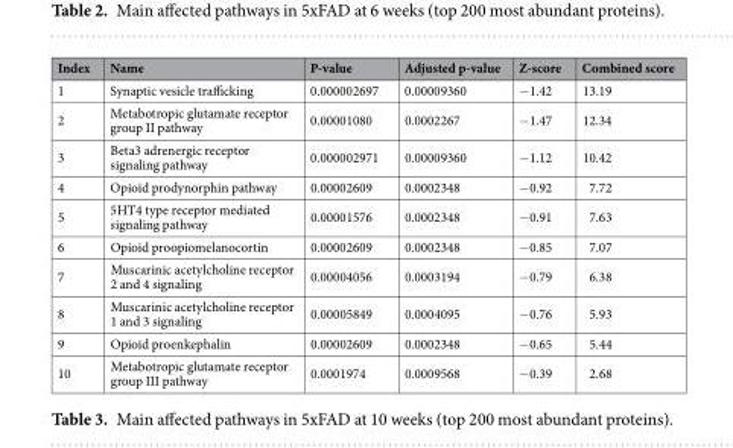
<table><thead><tr><td>Index</td><td>Name</td><td>P-value</td><td>Adjusted p-value</td><td>Z-score</td><td>Combined score</td></tr></thead><tbody><tr><td>1</td><td>Synaptic vesicle trafficking</td><td>0.000002697</td><td>0.00009360</td><td>−1.42</td><td>13.19</td></tr><tr><td>2</td><td>Metabotropic glutamate receptor group II pathway</td><td>0.00001080</td><td>0.0002267</td><td>−1.47</td><td>12.34</td></tr><tr><td>3</td><td>Beta3 adrenergic receptor signaling pathway</td><td>0.000002971</td><td>0.00009360</td><td>−1.12</td><td>10.42</td></tr><tr><td>4</td><td>Opioid prodynorphin pathway</td><td>0.00002609</td><td>0.0002348</td><td>−0.92</td><td>7.72</td></tr><tr><td>5</td><td>5HT4 type receptor mediated signaling pathway</td><td>0.00001576</td><td>0.0002348</td><td>−0.91</td><td>7.63</td></tr><tr><td>6</td><td>Opioid proopiomelanocortin</td><td>0.00002609</td><td>0.0002348</td><td>−0.85</td><td>7.07</td></tr><tr><td>7</td><td>Muscarinic acetylcholine receptor 2 and 4 signaling</td><td>0.00004056</td><td>0.0003194</td><td>−0.79</td><td>6.38</td></tr><tr><td>8</td><td>Muscarinic acetylcholine receptor 1 and 3 signaling</td><td>0.00005849</td><td>0.0004095</td><td>−0.76</td><td>5.93</td></tr><tr><td>9</td><td>Opioid proenkephalin</td><td>0.00002609</td><td>0.0002348</td><td>−0.65</td><td>5.44</td></tr><tr><td>10</td><td>Metabotropic glutamate receptor group III pathway</td><td>0.0001974</td><td>0.0009568</td><td>−0.39</td><td>2.68</td></tr></tbody></table>